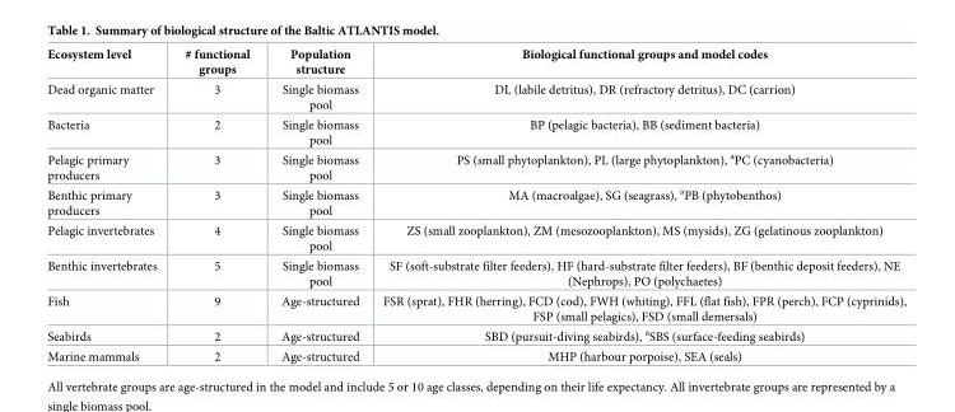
<table><thead><tr><td>Ecosystem level</td><td># functional groups</td><td>Population structure</td><td>Biological functional groups and model codes</td></tr></thead><tbody><tr><td>Dead organic matter</td><td>3</td><td>Single biomass pool</td><td>DL (labile detritus), DR (refractory detritus), DC (carrion)</td></tr><tr><td>Bacteria</td><td>2</td><td>Single biomass pool</td><td>BP (pelagic bacteria), BB (sediment bacteria)</td></tr><tr><td>Pelagic primary producers</td><td>3</td><td>Single biomass pool</td><td>PS (small phytoplankton), PL (large phytoplankton), <sup>a</sup>PC (cyanobacteria)</td></tr><tr><td>Benthic primary producers</td><td>3</td><td>Single biomass pool</td><td>MA (macroalgae), SG (seagrass), <sup>a</sup>PB (phytobenthos)</td></tr><tr><td>Pelagic invertebrates</td><td>4</td><td>Single biomass pool</td><td>ZS (small zooplankton), ZM (mesozooplankton), MS (mysids), ZG (gelatinous zooplankton)</td></tr><tr><td>Benthic invertebrates</td><td>5</td><td>Single biomass pool</td><td>SF (soft-substrate filter feeders), HF (hard-substrate filter feeders), BF (benthic deposit feeders), NE (Nephrops), PO (polychaetes)</td></tr><tr><td>Fish</td><td>9</td><td>Age-structured</td><td>FSR (sprat), FHR (herring), FCD (cod), FWH (whiting), FFL (flat fish), FPR (perch), FCP (cyprinids), FSP (small pelagics), FSD (small demersals)</td></tr><tr><td>Seabirds</td><td>2</td><td>Age-structured</td><td>SBD (pursuit-diving seabirds), <sup>a</sup>SBS (surface-feeding seabirds)</td></tr><tr><td>Marine mammals</td><td>2</td><td>Age-structured</td><td>MHP (harbour porpoise), SEA (seals)</td></tr></tbody></table>